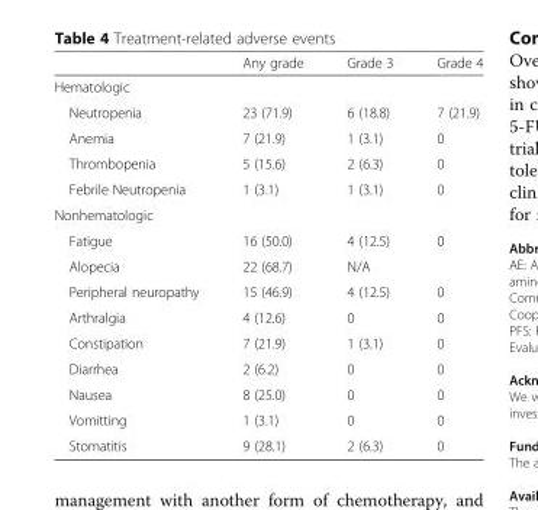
<table><thead><tr><td></td><td>Any grade</td><td>Grade 3</td><td>Grade 4</td></tr></thead><tbody><tr><td colspan="4">Hematologic</td></tr><tr><td>Neutropenia</td><td>23 (71.9)</td><td>6 (18.8)</td><td>7 (21.9)</td></tr><tr><td>Anemia</td><td>7 (21.9)</td><td>1 (3.1)</td><td>0</td></tr><tr><td>Thrombopenia</td><td>5 (15.6)</td><td>2 (6.3)</td><td>0</td></tr><tr><td>Febrile Neutropenia</td><td>1 (3.1)</td><td>1 (3.1)</td><td>0</td></tr><tr><td colspan="4">Nonhematologic</td></tr><tr><td>Fatigue</td><td>16 (50.0)</td><td>4 (12.5)</td><td>0</td></tr><tr><td>Alopecia</td><td>22 (68.7)</td><td colspan="2">N/A</td></tr><tr><td>Peripheral neuropathy</td><td>15 (46.9)</td><td>4 (12.5)</td><td>0</td></tr><tr><td>Arthralgia</td><td>4 (12.6)</td><td>0</td><td>0</td></tr><tr><td>Constipation</td><td>7 (21.9)</td><td>1 (3.1)</td><td>0</td></tr><tr><td>Diarrhea</td><td>2 (6.2)</td><td>0</td><td>0</td></tr><tr><td>Nausea</td><td>8 (25.0)</td><td>0</td><td>0</td></tr><tr><td>Vomitting</td><td>1 (3.1)</td><td>0</td><td>0</td></tr><tr><td>Stomatitis</td><td>9 (28.1)</td><td>2 (6.3)</td><td>0</td></tr></tbody></table>